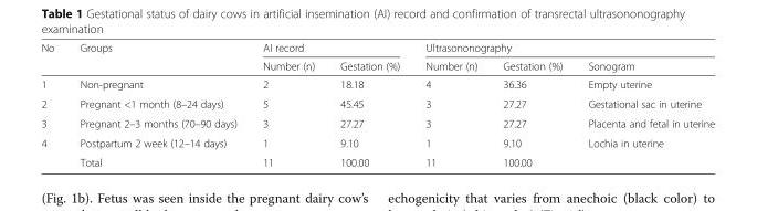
<table><thead><tr><td rowspan="2">No</td><td rowspan="2">Groups</td><td colspan="2">AI record</td><td colspan="3">Ultrasononography</td></tr><tr><td>Number (n)</td><td>Gestation (%)</td><td>Number (n)</td><td>Gestation (%)</td><td>Sonogram</td></tr></thead><tbody><tr><td>1</td><td>Non-pregnant</td><td>2</td><td>18.18</td><td>4</td><td>36.36</td><td>Empty uterine</td></tr><tr><td>2</td><td>Pregnant &lt;1 month (8–24 days)</td><td>5</td><td>45.45</td><td>3</td><td>27.27</td><td>Gestational sac in uterine</td></tr><tr><td>3</td><td>Pregnant 2–3 months (70–90 days)</td><td>3</td><td>27.27</td><td>3</td><td>27.27</td><td>Placenta and fetal in uterine</td></tr><tr><td rowspan="2">4</td><td>Postpartum 2 week (12–14 days)</td><td>1</td><td>9.10</td><td>1</td><td>9.10</td><td>Lochia in uterine</td></tr><tr><td>Total</td><td>11</td><td>100.00</td><td>11</td><td>100.00</td><td></td></tr></tbody></table>